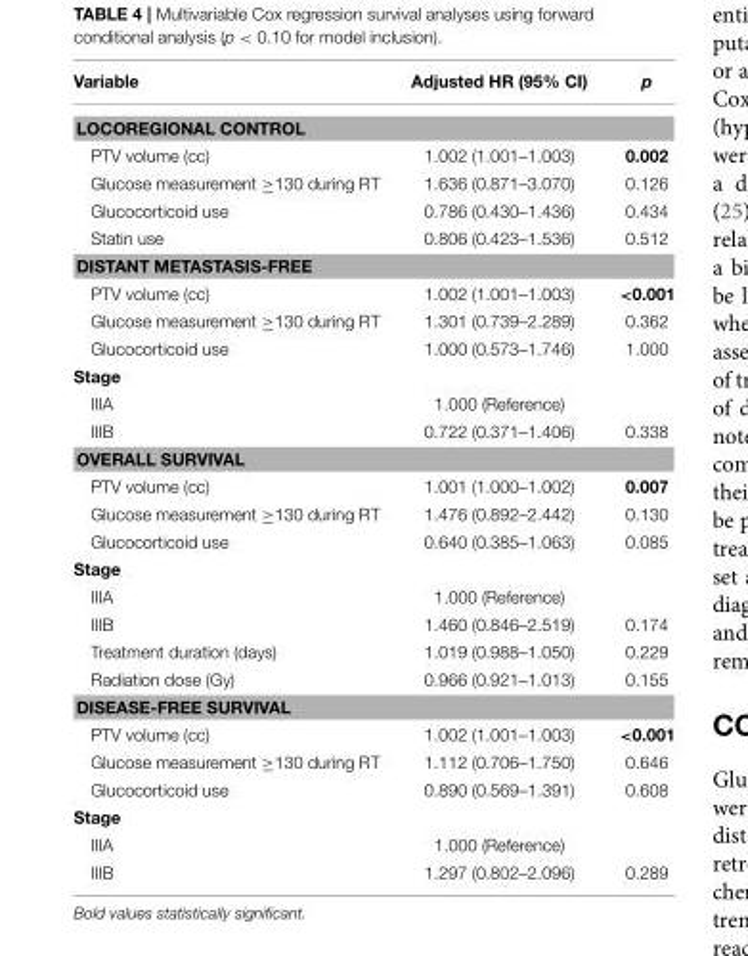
<table><thead><tr><td>Variable</td><td>Adjusted HR (95% CI)</td><td>p</td></tr></thead><tbody><tr><td colspan="3">LOCOREGIONAL CONTROL</td></tr><tr><td>PTV volume (cc)</td><td>1.002 (1.001–1.003)</td><td>0.002</td></tr><tr><td>Glucose measurement ≥130 during RT</td><td>1.636 (0.871–3.070)</td><td>0.126</td></tr><tr><td>Glucocorticoid use</td><td>0.786 (0.430–1.436)</td><td>0.434</td></tr><tr><td>Statin use</td><td>0.806 (0.423–1.536)</td><td>0.512</td></tr><tr><td colspan="3">DISTANT METASTASIS-FREE</td></tr><tr><td>PTV volume (cc)</td><td>1.002 (1.001–1.003)</td><td>&lt;0.001</td></tr><tr><td>Glucose measurement ≥130 during RT</td><td>1.301 (0.739–2.289)</td><td>0.362</td></tr><tr><td>Glucocorticoid use</td><td>1.000 (0.573–1.746)</td><td>1.000</td></tr><tr><td colspan="3">Stage</td></tr><tr><td>IIIA</td><td>1.000 (Reference)</td><td></td></tr><tr><td>IIIB</td><td>0.722 (0.371–1.406)</td><td>0.338</td></tr><tr><td colspan="3">OVERALL SURVIVAL</td></tr><tr><td>PTV volume (cc)</td><td>1.001 (1.000–1.002)</td><td>0.007</td></tr><tr><td>Glucose measurement ≥130 during RT</td><td>1.476 (0.892–2.442)</td><td>0.130</td></tr><tr><td>Glucocorticoid use</td><td>0.640 (0.385–1.063)</td><td>0.085</td></tr><tr><td colspan="3">Stage</td></tr><tr><td>IIIA</td><td>1.000 (Reference)</td><td></td></tr><tr><td>IIIB</td><td>1.460 (0.846–2.519)</td><td>0.174</td></tr><tr><td>Treatment duration (days)</td><td>1.019 (0.988–1.050)</td><td>0.229</td></tr><tr><td>Radiation dose (Gy)</td><td>0.966 (0.921–1.013)</td><td>0.155</td></tr><tr><td colspan="3">DISEASE-FREE SURVIVAL</td></tr><tr><td>PTV volume (cc)</td><td>1.002 (1.001–1.003)</td><td>&lt;0.001</td></tr><tr><td>Glucose measurement ≥130 during RT</td><td>1.112 (0.706–1.750)</td><td>0.646</td></tr><tr><td>Glucocorticoid use</td><td>0.890 (0.569–1.391)</td><td>0.608</td></tr><tr><td colspan="3">Stage</td></tr><tr><td>IIIA</td><td>1.000 (Reference)</td><td></td></tr><tr><td>IIIB</td><td>1.297 (0.802–2.096)</td><td>0.289</td></tr></tbody></table>